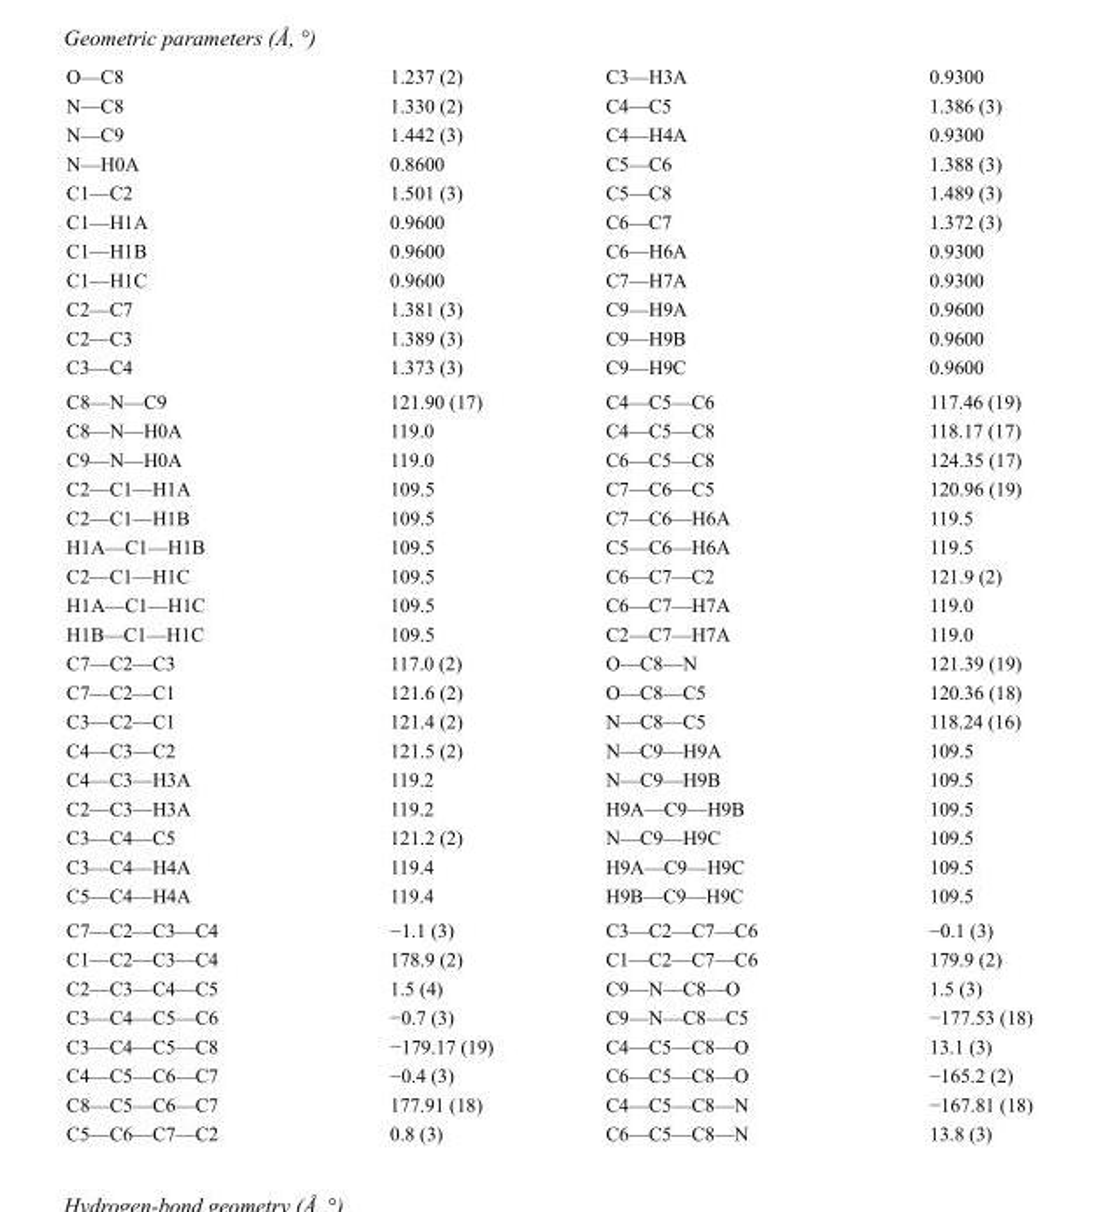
<table><tbody><tr><td>O—C8</td><td>1.237 (2)</td><td>C3—H3A</td><td>0.9300</td></tr><tr><td>N—C8</td><td>1.330 (2)</td><td>C4—C5</td><td>1.386 (3)</td></tr><tr><td>N—C9</td><td>1.442 (3)</td><td>C4—H4A</td><td>0.9300</td></tr><tr><td>N—H0A</td><td>0.8600</td><td>C5—C6</td><td>1.388 (3)</td></tr><tr><td>C1—C2</td><td>1.501 (3)</td><td>C5—C8</td><td>1.489 (3)</td></tr><tr><td>C1—H1A</td><td>0.9600</td><td>C6—C7</td><td>1.372 (3)</td></tr><tr><td>C1—H1B</td><td>0.9600</td><td>C6—H6A</td><td>0.9300</td></tr><tr><td>C1—H1C</td><td>0.9600</td><td>C7—H7A</td><td>0.9300</td></tr><tr><td>C2—C7</td><td>1.381 (3)</td><td>C9—H9A</td><td>0.9600</td></tr><tr><td>C2—C3</td><td>1.389 (3)</td><td>C9—H9B</td><td>0.9600</td></tr><tr><td>C3—C4</td><td>1.373 (3)</td><td>C9—H9C</td><td>0.9600</td></tr><tr><td>C8—N—C9</td><td>121.90 (17)</td><td>C4—C5—C6</td><td>117.46 (19)</td></tr><tr><td>C8—N—H0A</td><td>119.0</td><td>C4—C5—C8</td><td>118.17 (17)</td></tr><tr><td>C9—N—H0A</td><td>119.0</td><td>C6—C5—C8</td><td>124.35 (17)</td></tr><tr><td>C2—C1—H1A</td><td>109.5</td><td>C7—C6—C5</td><td>120.96 (19)</td></tr><tr><td>C2—C1—H1B</td><td>109.5</td><td>C7—C6—H6A</td><td>119.5</td></tr><tr><td>H1A—C1—H1B</td><td>109.5</td><td>C5—C6—H6A</td><td>119.5</td></tr><tr><td>C2—C1—H1C</td><td>109.5</td><td>C6—C7—C2</td><td>121.9 (2)</td></tr><tr><td>H1A—C1—H1C</td><td>109.5</td><td>C6—C7—H7A</td><td>119.0</td></tr><tr><td>H1B—C1—H1C</td><td>109.5</td><td>C2—C7—H7A</td><td>119.0</td></tr><tr><td>C7—C2—C3</td><td>117.0 (2)</td><td>O—C8—N</td><td>121.39 (19)</td></tr><tr><td>C7—C2—C1</td><td>121.6 (2)</td><td>O—C8—C5</td><td>120.36 (18)</td></tr><tr><td>C3—C2—C1</td><td>121.4 (2)</td><td>N—C8—C5</td><td>118.24 (16)</td></tr><tr><td>C4—C3—C2</td><td>121.5 (2)</td><td>N—C9—H9A</td><td>109.5</td></tr><tr><td>C4—C3—H3A</td><td>119.2</td><td>N—C9—H9B</td><td>109.5</td></tr><tr><td>C2—C3—H3A</td><td>119.2</td><td>H9A—C9—H9B</td><td>109.5</td></tr><tr><td>C3—C4—C5</td><td>121.2 (2)</td><td>N—C9—H9C</td><td>109.5</td></tr><tr><td>C3—C4—H4A</td><td>119.4</td><td>H9A—C9—H9C</td><td>109.5</td></tr><tr><td>C5—C4—H4A</td><td>119.4</td><td>H9B—C9—H9C</td><td>109.5</td></tr><tr><td>C7—C2—C3—C4</td><td>−1.1 (3)</td><td>C3—C2—C7—C6</td><td>−0.1 (3)</td></tr><tr><td>C1—C2—C3—C4</td><td>178.9 (2)</td><td>C1—C2—C7—C6</td><td>179.9 (2)</td></tr><tr><td>C2—C3—C4—C5</td><td>1.5 (4)</td><td>C9—N—C8—O</td><td>1.5 (3)</td></tr><tr><td>C3—C4—C5—C6</td><td>−0.7 (3)</td><td>C9—N—C8—C5</td><td>−177.53 (18)</td></tr><tr><td>C3—C4—C5—C8</td><td>−179.17 (19)</td><td>C4—C5—C8—O</td><td>13.1 (3)</td></tr><tr><td>C4—C5—C6—C7</td><td>−0.4 (3)</td><td>C6—C5—C8—O</td><td>−165.2 (2)</td></tr><tr><td>C8—C5—C6—C7</td><td>177.91 (18)</td><td>C4—C5—C8—N</td><td>−167.81 (18)</td></tr><tr><td>C5—C6—C7—C2</td><td>0.8 (3)</td><td>C6—C5—C8—N</td><td>13.8 (3)</td></tr></tbody></table>